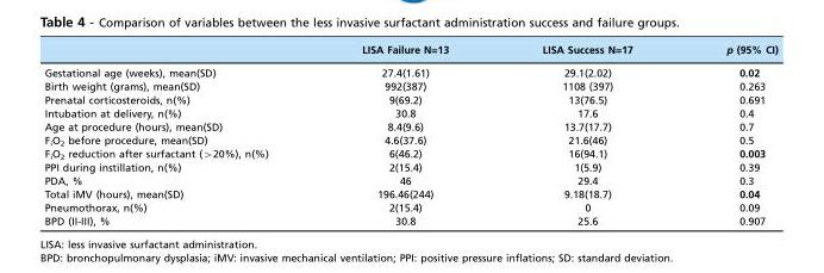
<table><thead><tr><td></td><td>LISA Failure N=13</td><td>LISA Success N=17</td><td>p (95% CI)</td></tr></thead><tbody><tr><td>Gestational age (weeks), mean(SD)</td><td>27.4(1.61)</td><td>29.1(2.02)</td><td>0.02</td></tr><tr><td>Birth weight (grams), mean(SD)</td><td>992(387)</td><td>1108 (397)</td><td>0.263</td></tr><tr><td>Prenatal corticosteroids, n(%)</td><td>9(69.2)</td><td>13(76.5)</td><td>0.691</td></tr><tr><td>Intubation at delivery, n(%)</td><td>30.8</td><td>17.6</td><td>0.4</td></tr><tr><td>Age at procedure (hours), mean(SD)</td><td>8.4(9.6)</td><td>13.7(17.7)</td><td>0.7</td></tr><tr><td>F<sub>i</sub>O<sub>2</sub> before procedure, mean(SD)</td><td>4.6(37.6)</td><td>21.6(46)</td><td>0.5</td></tr><tr><td>F<sub>i</sub>O<sub>2</sub> reduction after surfactant (&gt;20%), n(%)</td><td>6(46.2)</td><td>16(94.1)</td><td>0.003</td></tr><tr><td>PPI during instillation, n(%)</td><td>2(15.4)</td><td>1(5.9)</td><td>0.39</td></tr><tr><td>PDA, %</td><td>46</td><td>29.4</td><td>0.3</td></tr><tr><td>Total iMV (hours), mean(SD)</td><td>196.46(244)</td><td>9.18(18.7)</td><td>0.04</td></tr><tr><td>Pneumothorax, n(%)</td><td>2(15.4)</td><td>0</td><td>0.09</td></tr><tr><td>BPD (II-III), %</td><td>30.8</td><td>25.6</td><td>0.907</td></tr></tbody></table>